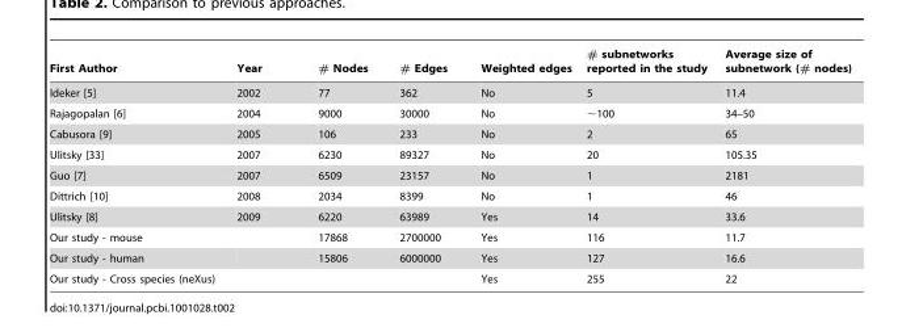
<table><thead><tr><td>First Author</td><td>Year</td><td># Nodes</td><td># Edges</td><td>Weighted edges</td><td># subnetworks reported in the study</td><td>Average size of subnetwork (# nodes)</td></tr></thead><tbody><tr><td>Ideker [5]</td><td>2002</td><td>77</td><td>362</td><td>No</td><td>5</td><td>11.4</td></tr><tr><td>Rajagopalan [6]</td><td>2004</td><td>9000</td><td>30000</td><td>No</td><td>∼100</td><td>34–50</td></tr><tr><td>Cabusora [9]</td><td>2005</td><td>106</td><td>233</td><td>No</td><td>2</td><td>65</td></tr><tr><td>Ulitsky [33]</td><td>2007</td><td>6230</td><td>89327</td><td>No</td><td>20</td><td>105.35</td></tr><tr><td>Guo [7]</td><td>2007</td><td>6509</td><td>23157</td><td>No</td><td>1</td><td>2181</td></tr><tr><td>Dittrich [10]</td><td>2008</td><td>2034</td><td>8399</td><td>No</td><td>1</td><td>46</td></tr><tr><td>Ulitsky [8]</td><td>2009</td><td>6220</td><td>63989</td><td>Yes</td><td>14</td><td>33.6</td></tr><tr><td>Our study - mouse</td><td></td><td>17868</td><td>2700000</td><td>Yes</td><td>116</td><td>11.7</td></tr><tr><td>Our study - human</td><td></td><td>15806</td><td>6000000</td><td>Yes</td><td>127</td><td>16.6</td></tr><tr><td>Our study - Cross species (neXus)</td><td></td><td></td><td></td><td>Yes</td><td>255</td><td>22</td></tr></tbody></table>